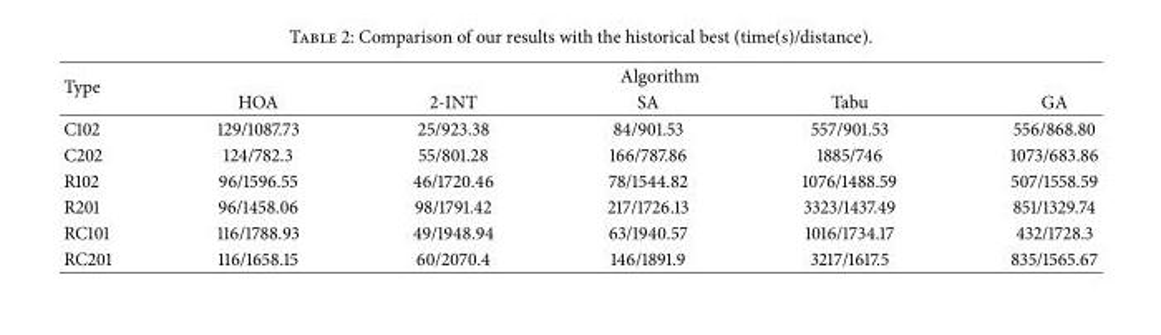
<table><thead><tr><td rowspan="2">Type</td><td colspan="5">Algorithm</td></tr><tr><td>HOA</td><td>2-INT</td><td>SA</td><td>Tabu</td><td>GA</td></tr></thead><tbody><tr><td>C102</td><td>129/1087.73</td><td>25/923.38</td><td>84/901.53</td><td>557/901.53</td><td>556/868.80</td></tr><tr><td>C202</td><td>124/782.3</td><td>55/801.28</td><td>166/787.86</td><td>1885/746</td><td>1073/683.86</td></tr><tr><td>R102</td><td>96/1596.55</td><td>46/1720.46</td><td>78/1544.82</td><td>1076/1488.59</td><td>507/1558.59</td></tr><tr><td>R201</td><td>96/1458.06</td><td>98/1791.42</td><td>217/1726.13</td><td>3323/1437.49</td><td>851/1329.74</td></tr><tr><td>RC101</td><td>116/1788.93</td><td>49/1948.94</td><td>63/1940.57</td><td>1016/1734.17</td><td>432/1728.3</td></tr><tr><td>RC201</td><td>116/1658.15</td><td>60/2070.4</td><td>146/1891.9</td><td>3217/1617.5</td><td>835/1565.67</td></tr></tbody></table>